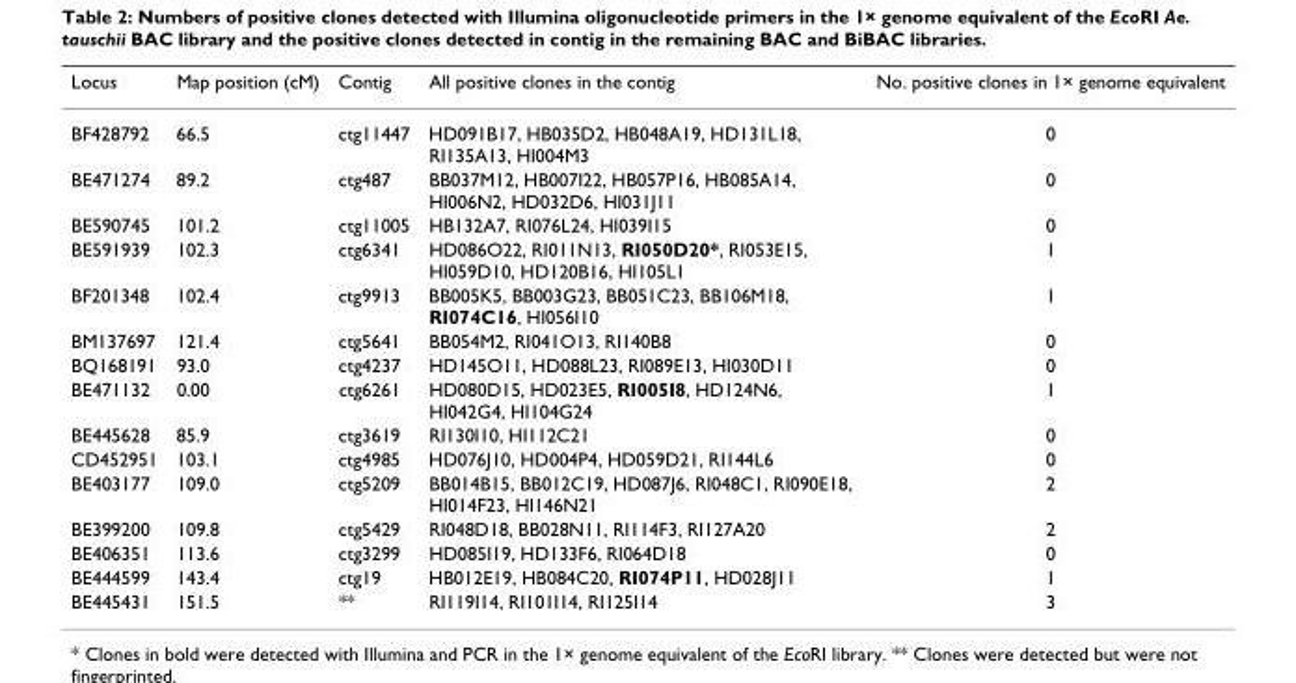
<table><thead><tr><td>Locus</td><td>Map position (cM)</td><td>Contig</td><td>All positive clones in the contig</td><td>No. positive clones in 1× genome equivalent</td></tr></thead><tbody><tr><td>BF428792</td><td>66.5</td><td>ctg11447</td><td>HD091B17, HB035D2, HB048A19, HD131L18, RI135A13, HI004M3</td><td>0</td></tr><tr><td>BE471274</td><td>89.2</td><td>ctg487</td><td>BB037M12, HB007I22, HB057P16, HB085A14, HI006N2, HD032D6, HI031J11</td><td>0</td></tr><tr><td>BE590745</td><td>101.2</td><td>ctg11005</td><td>HB132A7, RI076L24, HI039I15</td><td>0</td></tr><tr><td>BE591939</td><td>102.3</td><td>ctg6341</td><td>HD086O22, RI011N13, RI050D20*, RI053E15, HI059D10, HD120B16, HI105L1</td><td>1</td></tr><tr><td>BF201348</td><td>102.4</td><td>ctg9913</td><td>BB005K5, BB003G23, BB051C23, BB106M18, RI074C16, HI056I10</td><td>1</td></tr><tr><td>BM137697</td><td>121.4</td><td>ctg5641</td><td>BB054M2, RI041O13, RI140B8</td><td>0</td></tr><tr><td>BQ168191</td><td>93.0</td><td>ctg4237</td><td>HD145O11, HD088L23, RI089E13, HI030D11</td><td>0</td></tr><tr><td>BE471132</td><td>0.00</td><td>ctg6261</td><td>HD080D15, HD023E5, RI005I8, HD124N6, HI042G4, HI104G24</td><td>1</td></tr><tr><td>BE445628</td><td>85.9</td><td>ctg3619</td><td>RI130I10, HI112C21</td><td>0</td></tr><tr><td>CD452951</td><td>103.1</td><td>ctg4985</td><td>HD076J10, HD004P4, HD059D21, RI144L6</td><td>0</td></tr><tr><td>BE403177</td><td>109.0</td><td>ctg5209</td><td>BB014B15, BB012C19, HD087J6, RI048C1, RI090E18, HI014F23, HI146N21</td><td>2</td></tr><tr><td>BE399200</td><td>109.8</td><td>ctg5429</td><td>RI048D18, BB028N11, RI114F3, RI127A20</td><td>2</td></tr><tr><td>BE406351</td><td>113.6</td><td>ctg3299</td><td>HD085I19, HD133F6, RI064D18</td><td>0</td></tr><tr><td>BE444599</td><td>143.4</td><td>ctg19</td><td>HB012E19, HB084C20, RI074P11, HD028J11</td><td>1</td></tr><tr><td>BE445431</td><td>151.5</td><td>**</td><td>RI119I14, RI101I14, RI125I14</td><td>3</td></tr></tbody></table>